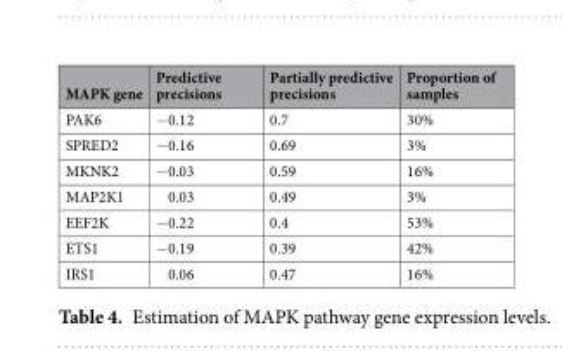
<table><thead><tr><td>MAPK gene</td><td>Predictive precisions</td><td>Partially predictive precisions</td><td>Proportion of samples</td></tr></thead><tbody><tr><td>PAK6</td><td>−0.12</td><td>0.7</td><td>30%</td></tr><tr><td>SPRED2</td><td>−0.16</td><td>0.69</td><td>3%</td></tr><tr><td>MKNK2</td><td>−0.03</td><td>0.59</td><td>16%</td></tr><tr><td>MAP2K1</td><td>0.03</td><td>0.49</td><td>3%</td></tr><tr><td>EEF2K</td><td>−0.22</td><td>0.4</td><td>53%</td></tr><tr><td>ETS1</td><td>−0.19</td><td>0.39</td><td>42%</td></tr><tr><td>IRS1</td><td>0.06</td><td>0.47</td><td>16%</td></tr></tbody></table>